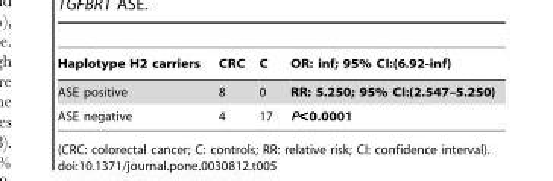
<table><thead><tr><td>Haplotype H2 carriers</td><td>CRC</td><td>C</td><td>OR: inf; 95% CI:(6.92-inf)</td></tr></thead><tbody><tr><td>ASE positive</td><td>8</td><td>0</td><td>RR: 5.250; 95% CI:(2.547–5.250)</td></tr><tr><td>ASE negative</td><td>4</td><td>17</td><td>P&lt;0.0001</td></tr></tbody></table>